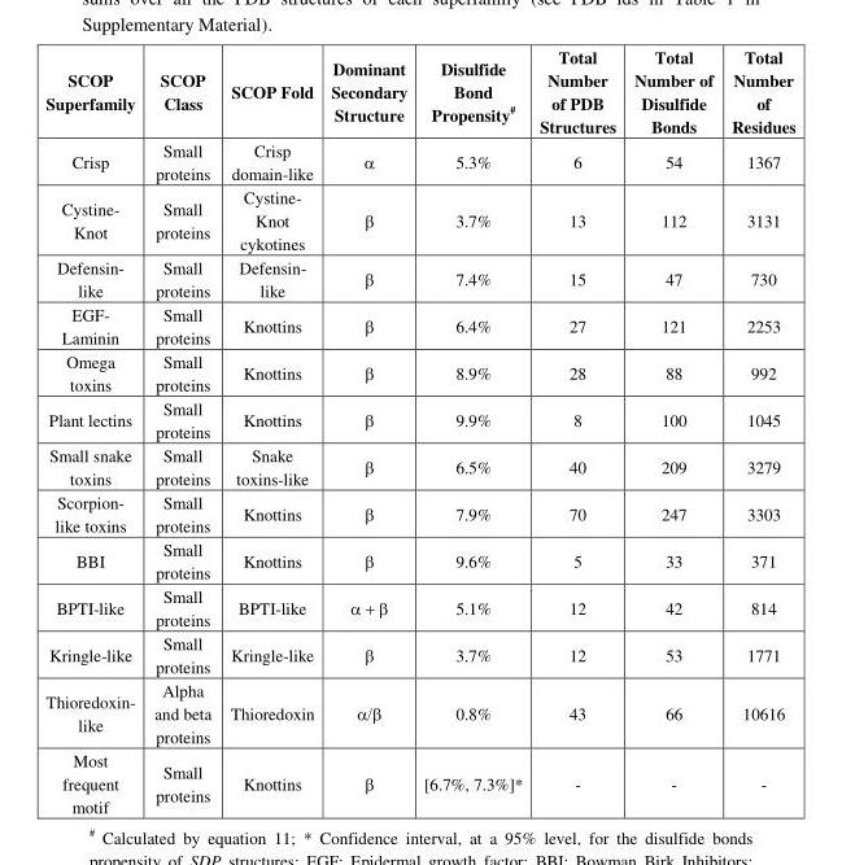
<table><thead><tr><td>SCOP Superfamily</td><td>SCOP Class</td><td>SCOP Fold</td><td>Dominant Secondary Structure</td><td>Disulfide Bond Propensity<sup>#</sup></td><td>Total Number of PDB Structures</td><td>Total Number of Disulfide Bonds</td><td>Total Number of Residues</td></tr></thead><tbody><tr><td>Crisp</td><td>Small proteins</td><td>Crisp domain-like</td><td>α</td><td>5.3%</td><td>6</td><td>54</td><td>1367</td></tr><tr><td>Cystine- Knot</td><td>Small proteins</td><td>Cystine- Knot cykotines</td><td>β</td><td>3.7%</td><td>13</td><td>112</td><td>3131</td></tr><tr><td>Defensin- like</td><td>Small proteins</td><td>Defensin- like</td><td>β</td><td>7.4%</td><td>15</td><td>47</td><td>730</td></tr><tr><td>EGF- Laminin</td><td>Small proteins</td><td>Knottins</td><td>β</td><td>6.4%</td><td>27</td><td>121</td><td>2253</td></tr><tr><td>Omega toxins</td><td>Small proteins</td><td>Knottins</td><td>β</td><td>8.9%</td><td>28</td><td>88</td><td>992</td></tr><tr><td>Plant lectins</td><td>Small proteins</td><td>Knottins</td><td>β</td><td>9.9%</td><td>8</td><td>100</td><td>1045</td></tr><tr><td>Small snake toxins</td><td>Small proteins</td><td>Snake toxins-like</td><td>β</td><td>6.5%</td><td>40</td><td>209</td><td>3279</td></tr><tr><td>Scorpion- like toxins</td><td>Small proteins</td><td>Knottins</td><td>β</td><td>7.9%</td><td>70</td><td>247</td><td>3303</td></tr><tr><td>BBI</td><td>Small proteins</td><td>Knottins</td><td>β</td><td>9.6%</td><td>5</td><td>33</td><td>371</td></tr><tr><td>BPTI-like</td><td>Small proteins</td><td>BPTI-like</td><td>α + β</td><td>5.1%</td><td>12</td><td>42</td><td>814</td></tr><tr><td>Kringle-like</td><td>Small proteins</td><td>Kringle-like</td><td>β</td><td>3.7%</td><td>12</td><td>53</td><td>1771</td></tr><tr><td>Thioredoxin- like</td><td>Alpha and beta proteins</td><td>Thioredoxin</td><td>α/β</td><td>0.8%</td><td>43</td><td>66</td><td>10616</td></tr><tr><td>Most frequent motif</td><td>Small proteins</td><td>Knottins</td><td>β</td><td>[6.7%, 7.3%]*</td><td>-</td><td>-</td><td>-</td></tr></tbody></table>